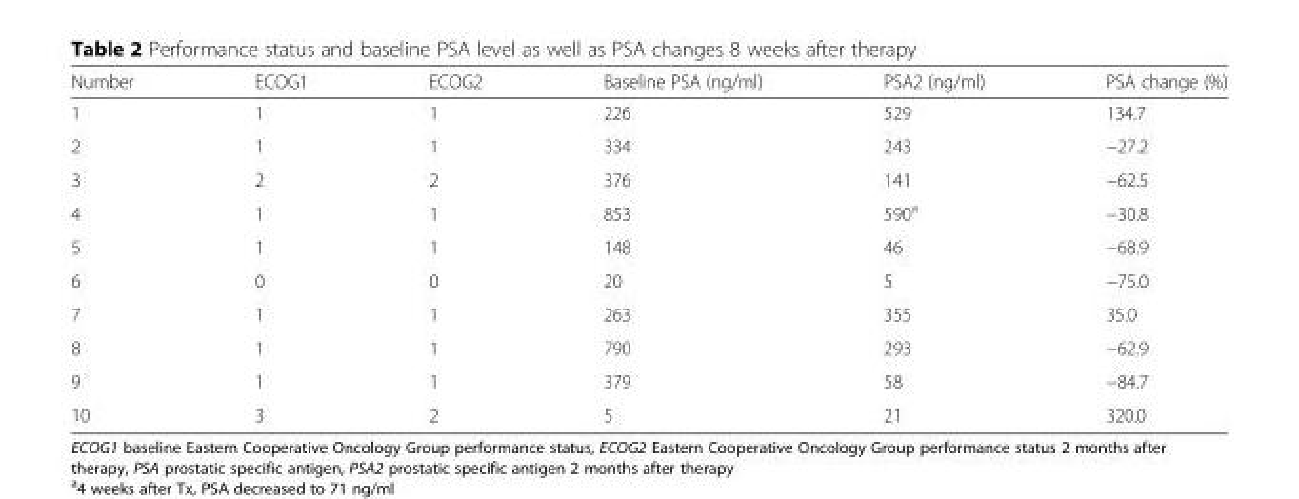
<table><thead><tr><td>Number</td><td>ECOG1</td><td>ECOG2</td><td>Baseline PSA (ng/ml)</td><td>PSA2 (ng/ml)</td><td>PSA change (%)</td></tr></thead><tbody><tr><td>1</td><td>1</td><td>1</td><td>226</td><td>529</td><td>134.7</td></tr><tr><td>2</td><td>1</td><td>1</td><td>334</td><td>243</td><td>−27.2</td></tr><tr><td>3</td><td>2</td><td>2</td><td>376</td><td>141</td><td>−62.5</td></tr><tr><td>4</td><td>1</td><td>1</td><td>853</td><td>590<sup>a</sup></td><td>−30.8</td></tr><tr><td>5</td><td>1</td><td>1</td><td>148</td><td>46</td><td>−68.9</td></tr><tr><td>6</td><td>0</td><td>0</td><td>20</td><td>5</td><td>−75.0</td></tr><tr><td>7</td><td>1</td><td>1</td><td>263</td><td>355</td><td>35.0</td></tr><tr><td>8</td><td>1</td><td>1</td><td>790</td><td>293</td><td>−62.9</td></tr><tr><td>9</td><td>1</td><td>1</td><td>379</td><td>58</td><td>−84.7</td></tr><tr><td>10</td><td>3</td><td>2</td><td>5</td><td>21</td><td>320.0</td></tr></tbody></table>